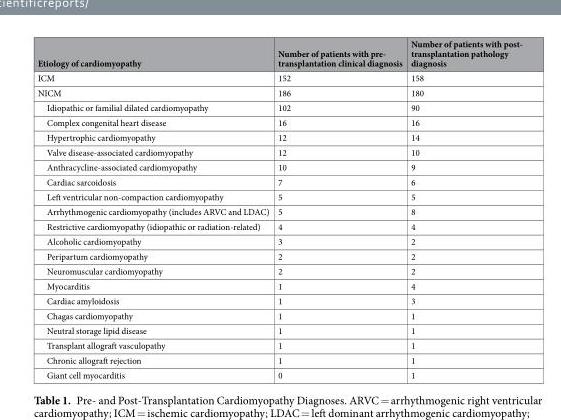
<table><thead><tr><td>Etiology of cardiomyopathy</td><td>Number of patients with pre- transplantation clinical diagnosis</td><td>Number of patients with post- transplantation pathology diagnosis</td></tr></thead><tbody><tr><td>ICM</td><td>152</td><td>158</td></tr><tr><td>NICM</td><td>186</td><td>180</td></tr><tr><td>Idiopathic or familial dilated cardiomyopathy</td><td>102</td><td>90</td></tr><tr><td>Complex congenital heart disease</td><td>16</td><td>16</td></tr><tr><td>Hypertrophic cardiomyopathy</td><td>12</td><td>14</td></tr><tr><td>Valve disease-associated cardiomyopathy</td><td>12</td><td>10</td></tr><tr><td>Anthracycline-associated cardiomyopathy</td><td>10</td><td>9</td></tr><tr><td>Cardiac sarcoidosis</td><td>7</td><td>6</td></tr><tr><td>Left ventricular non-compaction cardiomyopathy</td><td>5</td><td>5</td></tr><tr><td>Arrhythmogenic cardiomyopathy (includes ARVC and LDAC)</td><td>5</td><td>8</td></tr><tr><td>Restrictive cardiomyopathy (idiopathic or radiation-related)</td><td>4</td><td>4</td></tr><tr><td>Alcoholic cardiomyopathy</td><td>3</td><td>2</td></tr><tr><td>Peripartum cardiomyopathy</td><td>2</td><td>2</td></tr><tr><td>Neuromuscular cardiomyopathy</td><td>2</td><td>2</td></tr><tr><td>Myocarditis</td><td>1</td><td>4</td></tr><tr><td>Cardiac amyloidosis</td><td>1</td><td>3</td></tr><tr><td>Chagas cardiomyopathy</td><td>1</td><td>1</td></tr><tr><td>Neutral storage lipid disease</td><td>1</td><td>1</td></tr><tr><td>Transplant allograft vasculopathy</td><td>1</td><td>1</td></tr><tr><td>Chronic allograft rejection</td><td>1</td><td>1</td></tr><tr><td>Giant cell myocarditis</td><td>0</td><td>1</td></tr></tbody></table>